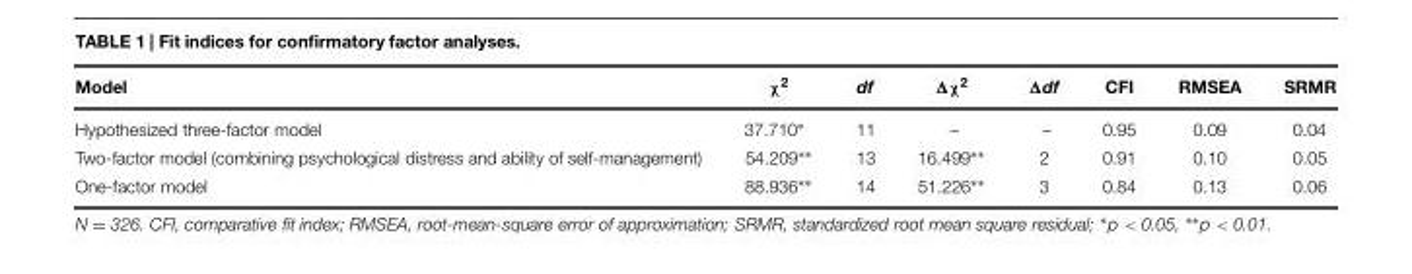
<table><thead><tr><td>Model</td><td>χ<sup>2</sup></td><td>df</td><td>Δχ<sup>2</sup></td><td>Δdf</td><td>CFI</td><td>RMSEA</td><td>SRMR</td></tr></thead><tbody><tr><td>Hypothesized three-factor model</td><td>37.710∗</td><td>11</td><td>–</td><td>–</td><td>0.95</td><td>0.09</td><td>0.04</td></tr><tr><td>Two-factor model (combining psychological distress and ability of self-management)</td><td>54.209∗∗</td><td>13</td><td>16.499∗∗</td><td>2</td><td>0.91</td><td>0.10</td><td>0.05</td></tr><tr><td>One-factor model</td><td>88.936∗∗</td><td>14</td><td>51.226∗∗</td><td>3</td><td>0.84</td><td>0.13</td><td>0.06</td></tr></tbody></table>